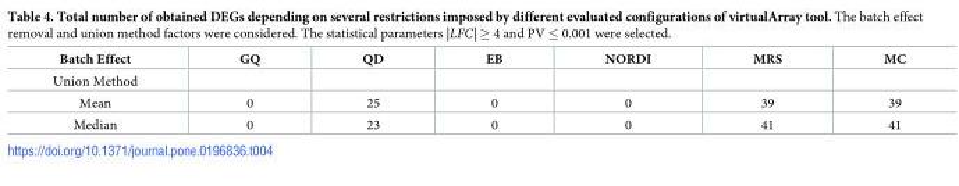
<table><thead><tr><td>Batch Effect</td><td>GQ</td><td>QD</td><td>EB</td><td>NORDI</td><td>MRS</td><td>MC</td></tr></thead><tbody><tr><td colspan="7">Union Method</td></tr><tr><td>Mean</td><td>0</td><td>25</td><td>0</td><td>0</td><td>39</td><td>39</td></tr><tr><td>Median</td><td>0</td><td>23</td><td>0</td><td>0</td><td>41</td><td>41</td></tr></tbody></table>